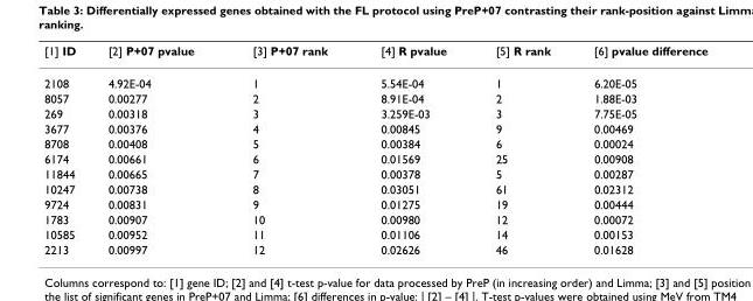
<table><thead><tr><td>[1] ID</td><td>[2] P+07 pvalue</td><td>[3] P+07 rank</td><td>[4] R pvalue</td><td>[5] R rank</td><td>[6] pvalue difference</td></tr></thead><tbody><tr><td>2108</td><td>4.92E-04</td><td>1</td><td>5.54E-04</td><td>1</td><td>6.20E-05</td></tr><tr><td>8057</td><td>0.00277</td><td>2</td><td>8.91E-04</td><td>2</td><td>1.88E-03</td></tr><tr><td>269</td><td>0.00318</td><td>3</td><td>3.259E-03</td><td>3</td><td>7.75E-05</td></tr><tr><td>3677</td><td>0.00376</td><td>4</td><td>0.00845</td><td>9</td><td>0.00469</td></tr><tr><td>8708</td><td>0.00408</td><td>5</td><td>0.00384</td><td>6</td><td>0.00024</td></tr><tr><td>6174</td><td>0.00661</td><td>6</td><td>0.01569</td><td>25</td><td>0.00908</td></tr><tr><td>11844</td><td>0.00665</td><td>7</td><td>0.00378</td><td>5</td><td>0.00287</td></tr><tr><td>10247</td><td>0.00738</td><td>8</td><td>0.03051</td><td>61</td><td>0.02312</td></tr><tr><td>9724</td><td>0.00831</td><td>9</td><td>0.01275</td><td>19</td><td>0.00444</td></tr><tr><td>1783</td><td>0.00907</td><td>10</td><td>0.00980</td><td>12</td><td>0.00072</td></tr><tr><td>10585</td><td>0.00952</td><td>11</td><td>0.01106</td><td>14</td><td>0.00153</td></tr><tr><td>2213</td><td>0.00997</td><td>12</td><td>0.02626</td><td>46</td><td>0.01628</td></tr></tbody></table>